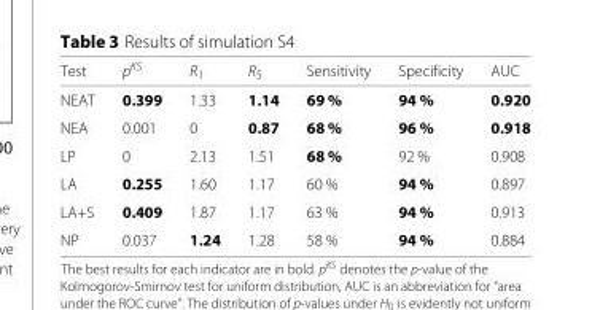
<table><thead><tr><td>Test</td><td>p<sup>KS</sup></td><td>R<sub>1</sub></td><td>R<sub>5</sub></td><td>Sensitivity</td><td>Specificity</td><td>AUC</td></tr></thead><tbody><tr><td>NEAT</td><td>0.399</td><td>1.33</td><td>1.14</td><td>69 %</td><td>94 %</td><td>0.920</td></tr><tr><td>NEA</td><td>0.001</td><td>0</td><td>0.87</td><td>68 %</td><td>96 %</td><td>0.918</td></tr><tr><td>LP</td><td>0</td><td>2.13</td><td>1.51</td><td>68 %</td><td>92 %</td><td>0.908</td></tr><tr><td>LA</td><td>0.255</td><td>1.60</td><td>1.17</td><td>60 %</td><td>94 %</td><td>0.897</td></tr><tr><td>LA+S</td><td>0.409</td><td>1.87</td><td>1.17</td><td>63 %</td><td>94 %</td><td>0.913</td></tr><tr><td>NP</td><td>0.037</td><td>1.24</td><td>1.28</td><td>58 %</td><td>94 %</td><td>0.884</td></tr></tbody></table>